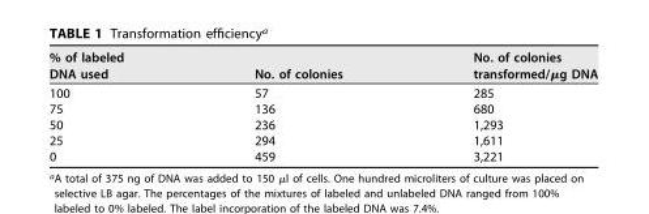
<table><thead><tr><td>% of labeled DNA used</td><td>No. of colonies</td><td>No. of colonies transformed/µg DNA</td></tr></thead><tbody><tr><td>100</td><td>57</td><td>285</td></tr><tr><td>75</td><td>136</td><td>680</td></tr><tr><td>50</td><td>236</td><td>1,293</td></tr><tr><td>25</td><td>294</td><td>1,611</td></tr><tr><td>0</td><td>459</td><td>3,221</td></tr></tbody></table>